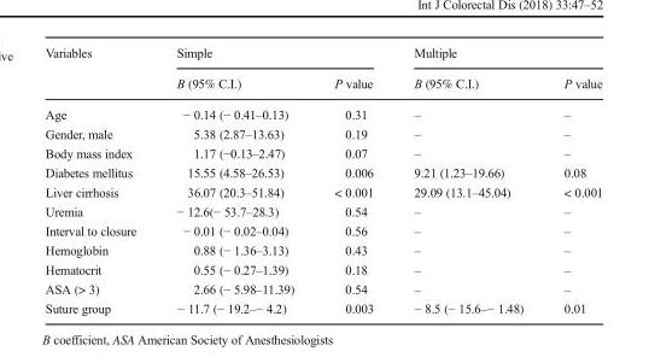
<table><thead><tr><td rowspan="2">Variables</td><td colspan="2">Simple</td><td colspan="2">Multiple</td></tr><tr><td>B (95% C.I.)</td><td>P value</td><td>B (95% C.I.)</td><td>P value</td></tr></thead><tbody><tr><td>Age</td><td>− 0.14 (− 0.41–0.13)</td><td>0.31</td><td>–</td><td>–</td></tr><tr><td>Gender, male</td><td>5.38 (2.87–13.63)</td><td>0.19</td><td>–</td><td>–</td></tr><tr><td>Body mass index</td><td>1.17 (−0.13–2.47)</td><td>0.07</td><td>–</td><td>–</td></tr><tr><td>Diabetes mellitus</td><td>15.55 (4.58–26.53)</td><td>0.006</td><td>9.21 (1.23–19.66)</td><td>0.08</td></tr><tr><td>Liver cirrhosis</td><td>36.07 (20.3–51.84)</td><td>&lt; 0.001</td><td>29.09 (13.1–45.04)</td><td>&lt; 0.001</td></tr><tr><td>Uremia</td><td>− 12.6(− 53.7–28.3)</td><td>0.54</td><td>–</td><td>–</td></tr><tr><td>Interval to closure</td><td>− 0.01 (− 0.02–0.04)</td><td>0.56</td><td>–</td><td>–</td></tr><tr><td>Hemoglobin</td><td>0.88 (− 1.36–3.13)</td><td>0.43</td><td>–</td><td>–</td></tr><tr><td>Hematocrit</td><td>0.55 (− 0.27–1.39)</td><td>0.18</td><td>–</td><td>–</td></tr><tr><td>ASA (&gt; 3)</td><td>2.66 (− 5.98–11.39)</td><td>0.54</td><td>–</td><td>–</td></tr><tr><td>Suture group</td><td>− 11.7 (− 19.2–− 4.2)</td><td>0.003</td><td>− 8.5 (− 15.6–− 1.48)</td><td>0.01</td></tr></tbody></table>